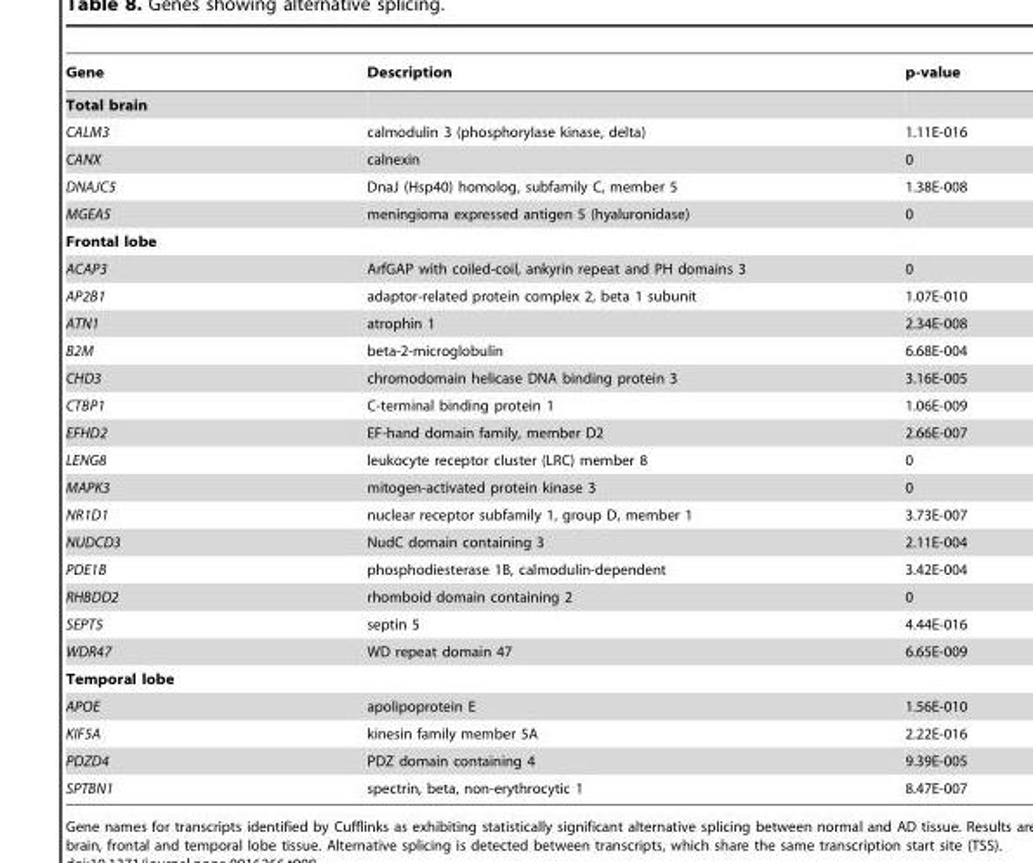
<table><thead><tr><td>Gene</td><td>Description</td><td>p-value</td></tr></thead><tbody><tr><td colspan="3">Total brain</td></tr><tr><td>CALM3</td><td>calmodulin 3 (phosphorylase kinase, delta)</td><td>1.11E-016</td></tr><tr><td>CANX</td><td>calnexin</td><td>0</td></tr><tr><td>DNAJC5</td><td>DnaJ (Hsp40) homolog, subfamily C, member 5</td><td>1.38E-008</td></tr><tr><td>MGEA5</td><td>meningioma expressed antigen 5 (hyaluronidase)</td><td>0</td></tr><tr><td colspan="3">Frontal lobe</td></tr><tr><td>ACAP3</td><td>ArfGAP with coiled-coil, ankyrin repeat and PH domains 3</td><td>0</td></tr><tr><td>AP2B1</td><td>adaptor-related protein complex 2, beta 1 subunit</td><td>1.07E-010</td></tr><tr><td>ATN1</td><td>atrophin 1</td><td>2.34E-008</td></tr><tr><td>B2M</td><td>beta-2-microglobulin</td><td>6.68E-004</td></tr><tr><td>CHD3</td><td>chromodomain helicase DNA binding protein 3</td><td>3.16E-005</td></tr><tr><td>CTBP1</td><td>C-terminal binding protein 1</td><td>1.06E-009</td></tr><tr><td>EFHD2</td><td>EF-hand domain family, member D2</td><td>2.66E-007</td></tr><tr><td>LENG8</td><td>leukocyte receptor cluster (LRC) member 8</td><td>0</td></tr><tr><td>MAPK3</td><td>mitogen-activated protein kinase 3</td><td>0</td></tr><tr><td>NR1D1</td><td>nuclear receptor subfamily 1, group D, member 1</td><td>3.73E-007</td></tr><tr><td>NUDCD3</td><td>NudC domain containing 3</td><td>2.11E-004</td></tr><tr><td>PDE1B</td><td>phosphodiesterase 1B, calmodulin-dependent</td><td>3.42E-004</td></tr><tr><td>RHBDD2</td><td>rhomboid domain containing 2</td><td>0</td></tr><tr><td>SEPT5</td><td>septin 5</td><td>4.44E-016</td></tr><tr><td>WDR47</td><td>WD repeat domain 47</td><td>6.65E-009</td></tr><tr><td colspan="3">Temporal lobe</td></tr><tr><td>APOE</td><td>apolipoprotein E</td><td>1.56E-010</td></tr><tr><td>KIF5A</td><td>kinesin family member 5A</td><td>2.22E-016</td></tr><tr><td>PDZD4</td><td>PDZ domain containing 4</td><td>9.39E-005</td></tr><tr><td>SPTBN1</td><td>spectrin, beta, non-erythrocytic 1</td><td>8.47E-007</td></tr></tbody></table>